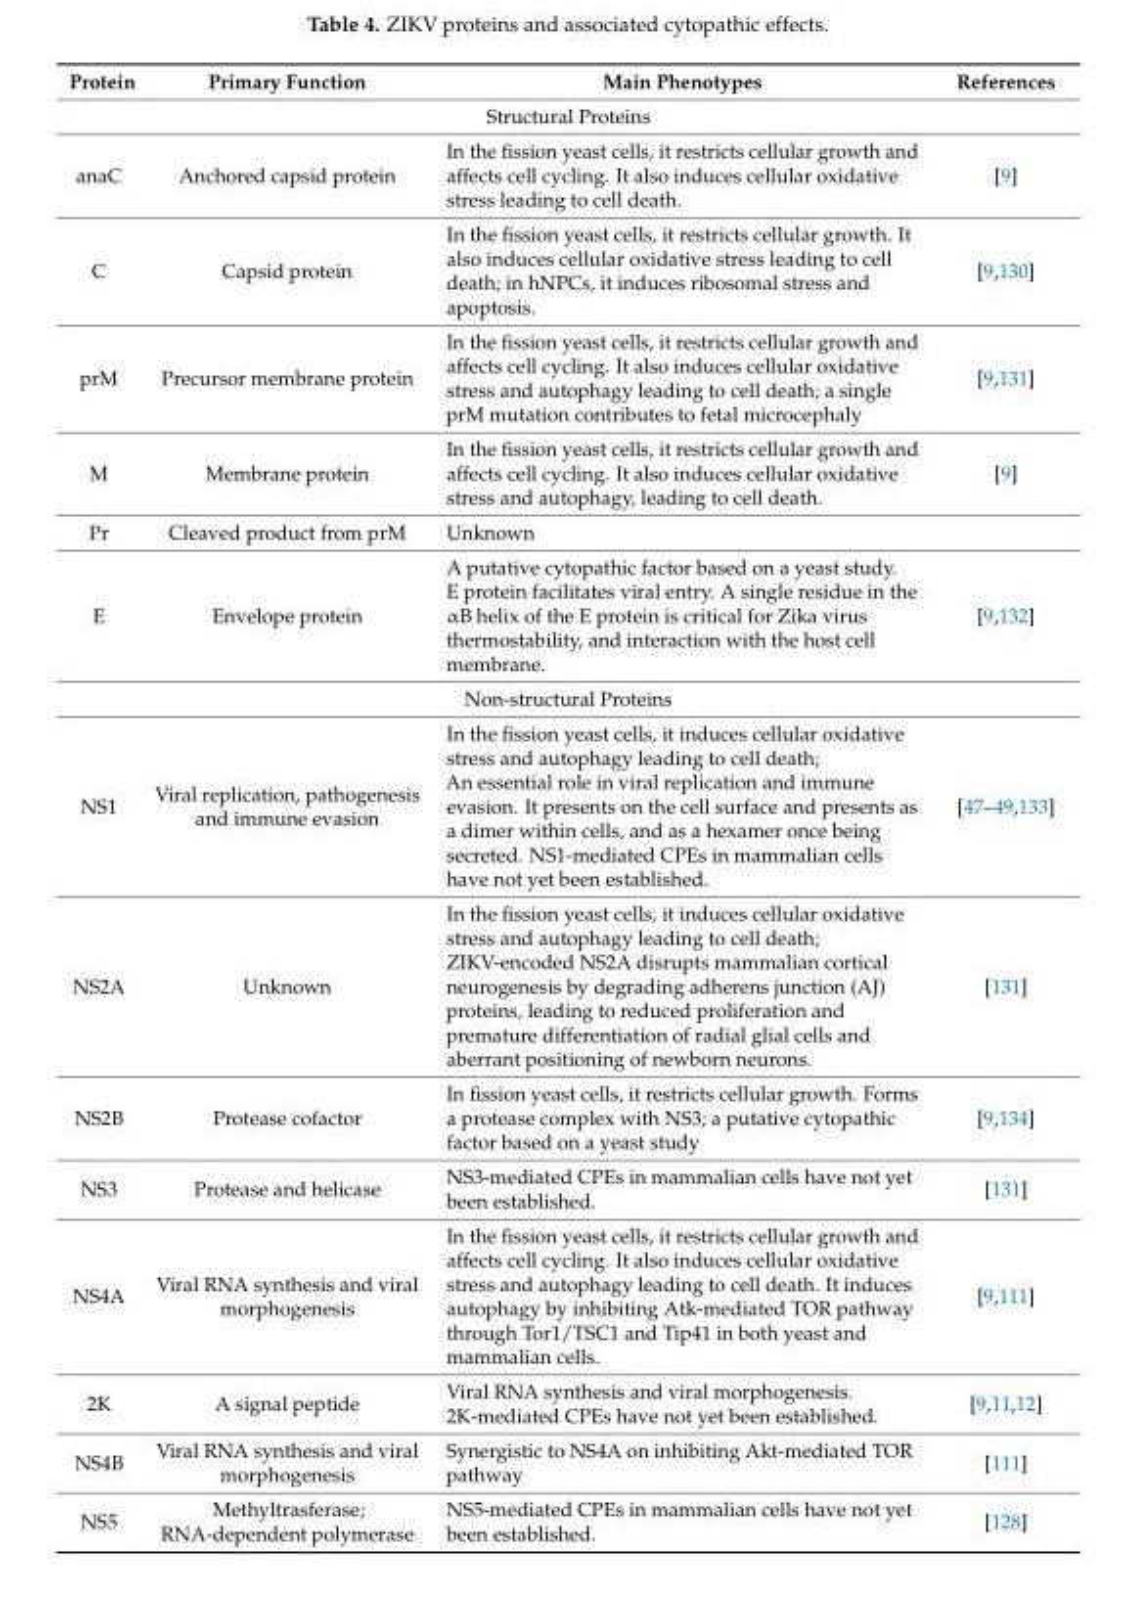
<table><thead><tr><td>Protein</td><td>Primary Function</td><td>Main Phenotypes</td><td>References</td></tr></thead><tbody><tr><td colspan="4">Structural Proteins</td></tr><tr><td>anaC</td><td>Anchored capsid protein</td><td>In the fission yeast cells, it restricts cellular growth and affects cell cycling. It also induces cellular oxidative stress leading to cell death.</td><td>[9]</td></tr><tr><td>C</td><td>Capsid protein</td><td>In the fission yeast cells, it restricts cellular growth. It also induces cellular oxidative stress leading to cell death; in hNPCs, it induces ribosomal stress and apoptosis.</td><td>[9,130]</td></tr><tr><td>prM</td><td>Precursor membrane protein</td><td>In the fission yeast cells, it restricts cellular growth and affects cell cycling. It also induces cellular oxidative stress and autophagy leading to cell death; a single prM mutation contributes to fetal microcephaly</td><td>[9,131]</td></tr><tr><td>M</td><td>Membrane protein</td><td>In the fission yeast cells, it restricts cellular growth and affects cell cycling. It also induces cellular oxidative stress and autophagy, leading to cell death.</td><td>[9]</td></tr><tr><td>Pr</td><td>Cleaved product from prM</td><td>Unknown</td><td></td></tr><tr><td>E</td><td>Envelope protein</td><td>A putative cytopathic factor based on a yeast study. E protein facilitates viral entry. A single residue in the αB helix of the E protein is critical for Zika virus thermostability, and interaction with the host cell membrane.</td><td>[9,132]</td></tr><tr><td colspan="4">Non-structural Proteins</td></tr><tr><td>NS1</td><td>Viral replication, pathogenesis and immune evasion</td><td>In the fission yeast cells, it induces cellular oxidative stress and autophagy leading to cell death; An essential role in viral replication and immune evasion. It presents on the cell surface and presents as a dimer within cells, and as a hexamer once being secreted. NS1-mediated CPEs in mammalian cells have not yet been established.</td><td>[47–49,133]</td></tr><tr><td>NS2A</td><td>Unknown</td><td>In the fission yeast cells, it induces cellular oxidative stress and autophagy leading to cell death; ZIKV-encoded NS2A disrupts mammalian cortical neurogenesis by degrading adherens junction (AJ) proteins, leading to reduced proliferation and premature differentiation of radial glial cells and aberrant positioning of newborn neurons.</td><td>[131]</td></tr><tr><td>NS2B</td><td>Protease cofactor</td><td>In fission yeast cells, it restricts cellular growth. Forms a protease complex with NS3; a putative cytopathic factor based on a yeast study</td><td>[9,134]</td></tr><tr><td>NS3</td><td>Protease and helicase</td><td>NS3-mediated CPEs in mammalian cells have not yet been established.</td><td>[131]</td></tr><tr><td>NS4A</td><td>Viral RNA synthesis and viral morphogenesis</td><td>In the fission yeast cells, it restricts cellular growth and affects cell cycling. It also induces cellular oxidative stress and autophagy leading to cell death. It induces autophagy by inhibiting Atk-mediated TOR pathway through Tor1/TSC1 and Tip41 in both yeast and mammalian cells.</td><td>[9,111]</td></tr><tr><td>2K</td><td>A signal peptide</td><td>Viral RNA synthesis and viral morphogenesis. 2K-mediated CPEs have not yet been established.</td><td>[9,11,12]</td></tr><tr><td>NS4B</td><td>Viral RNA synthesis and viral morphogenesis</td><td>Synergistic to NS4A on inhibiting Akt-mediated TOR pathway</td><td>[111]</td></tr><tr><td>NS5</td><td>Methyltrasferase; RNA-dependent polymerase</td><td>NS5-mediated CPEs in mammalian cells have not yet been established.</td><td>[128]</td></tr></tbody></table>